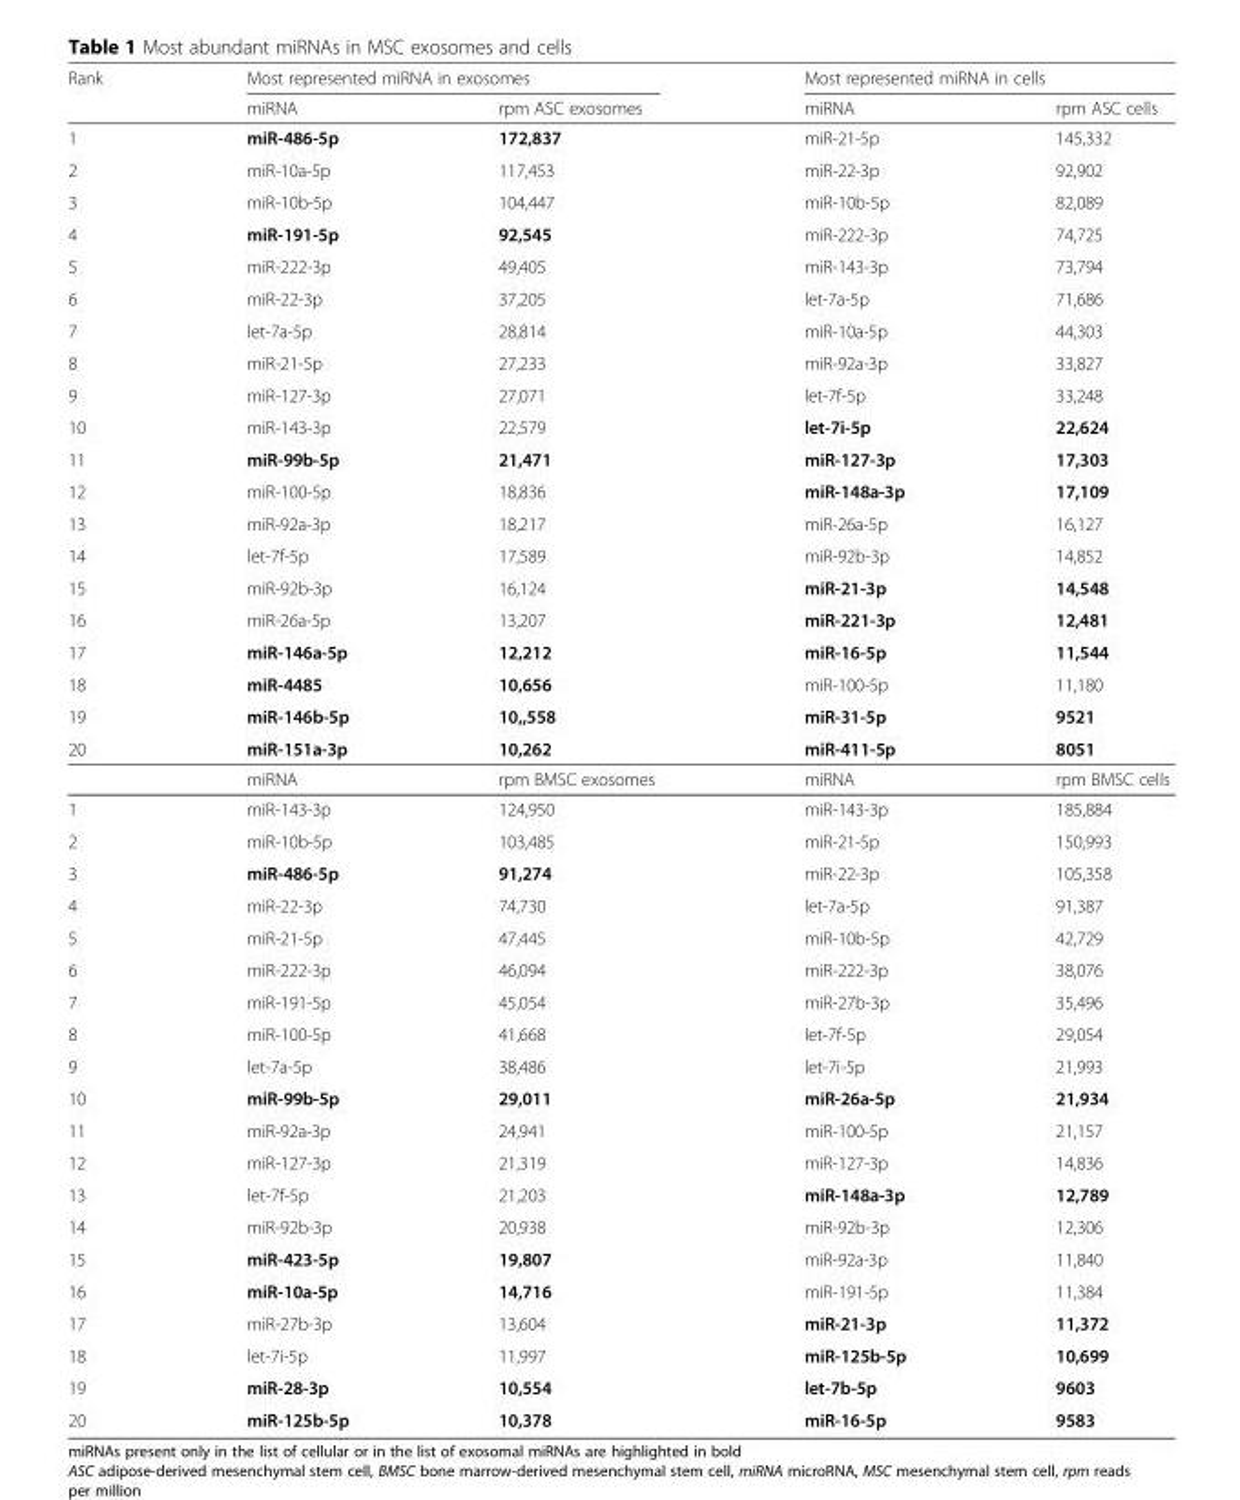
<table><thead><tr><td rowspan="2">Rank</td><td colspan="2">Most represented miRNA in exosomes</td><td colspan="2">Most represented miRNA in cells</td></tr><tr><td>miRNA</td><td>rpm ASC exosomes</td><td>miRNA</td><td>rpm ASC cells</td></tr></thead><tbody><tr><td>1</td><td>miR-486-5p</td><td>172,837</td><td>miR-21-5p</td><td>145,332</td></tr><tr><td>2</td><td>miR-10a-5p</td><td>117,453</td><td>miR-22-3p</td><td>92,902</td></tr><tr><td>3</td><td>miR-10b-5p</td><td>104,447</td><td>miR-10b-5p</td><td>82,089</td></tr><tr><td>4</td><td>miR-191-5p</td><td>92,545</td><td>miR-222-3p</td><td>74,725</td></tr><tr><td>5</td><td>miR-222-3p</td><td>49,405</td><td>miR-143-3p</td><td>73,794</td></tr><tr><td>6</td><td>miR-22-3p</td><td>37,205</td><td>let-7a-5p</td><td>71,686</td></tr><tr><td>7</td><td>let-7a-5p</td><td>28,814</td><td>miR-10a-5p</td><td>44,303</td></tr><tr><td>8</td><td>miR-21-5p</td><td>27,233</td><td>miR-92a-3p</td><td>33,827</td></tr><tr><td>9</td><td>miR-127-3p</td><td>27,071</td><td>let-7f-5p</td><td>33,248</td></tr><tr><td>10</td><td>miR-143-3p</td><td>22,579</td><td>let-7i-5p</td><td>22,624</td></tr><tr><td>11</td><td>miR-99b-5p</td><td>21,471</td><td>miR-127-3p</td><td>17,303</td></tr><tr><td>12</td><td>miR-100-5p</td><td>18,836</td><td>miR-148a-3p</td><td>17,109</td></tr><tr><td>13</td><td>miR-92a-3p</td><td>18,217</td><td>miR-26a-5p</td><td>16,127</td></tr><tr><td>14</td><td>let-7f-5p</td><td>17,589</td><td>miR-92b-3p</td><td>14,852</td></tr><tr><td>15</td><td>miR-92b-3p</td><td>16,124</td><td>miR-21-3p</td><td>14,548</td></tr><tr><td>16</td><td>miR-26a-5p</td><td>13,207</td><td>miR-221-3p</td><td>12,481</td></tr><tr><td>17</td><td>miR-146a-5p</td><td>12,212</td><td>miR-16-5p</td><td>11,544</td></tr><tr><td>18</td><td>miR-4485</td><td>10,656</td><td>miR-100-5p</td><td>11,180</td></tr><tr><td>19</td><td>miR-146b-5p</td><td>10,,558</td><td>miR-31-5p</td><td>9521</td></tr><tr><td rowspan="2">20</td><td>miR-151a-3p</td><td>10,262</td><td>miR-411-5p</td><td>8051</td></tr><tr><td>miRNA</td><td>rpm BMSC exosomes</td><td>miRNA</td><td>rpm BMSC cells</td></tr><tr><td>1</td><td>miR-143-3p</td><td>124,950</td><td>miR-143-3p</td><td>185,884</td></tr><tr><td>2</td><td>miR-10b-5p</td><td>103,485</td><td>miR-21-5p</td><td>150,993</td></tr><tr><td>3</td><td>miR-486-5p</td><td>91,274</td><td>miR-22-3p</td><td>105,358</td></tr><tr><td>4</td><td>miR-22-3p</td><td>74,730</td><td>let-7a-5p</td><td>91,387</td></tr><tr><td>5</td><td>miR-21-5p</td><td>47,445</td><td>miR-10b-5p</td><td>42,729</td></tr><tr><td>6</td><td>miR-222-3p</td><td>46,094</td><td>miR-222-3p</td><td>38,076</td></tr><tr><td>7</td><td>miR-191-5p</td><td>45,054</td><td>miR-27b-3p</td><td>35,496</td></tr><tr><td>8</td><td>miR-100-5p</td><td>41,668</td><td>let-7f-5p</td><td>29,054</td></tr><tr><td>9</td><td>let-7a-5p</td><td>38,486</td><td>let-7i-5p</td><td>21,993</td></tr><tr><td>10</td><td>miR-99b-5p</td><td>29,011</td><td>miR-26a-5p</td><td>21,934</td></tr><tr><td>11</td><td>miR-92a-3p</td><td>24,941</td><td>miR-100-5p</td><td>21,157</td></tr><tr><td>12</td><td>miR-127-3p</td><td>21,319</td><td>miR-127-3p</td><td>14,836</td></tr><tr><td>13</td><td>let-7f-5p</td><td>21,203</td><td>miR-148a-3p</td><td>12,789</td></tr><tr><td>14</td><td>miR-92b-3p</td><td>20,938</td><td>miR-92b-3p</td><td>12,306</td></tr><tr><td>15</td><td>miR-423-5p</td><td>19,807</td><td>miR-92a-3p</td><td>11,840</td></tr><tr><td>16</td><td>miR-10a-5p</td><td>14,716</td><td>miR-191-5p</td><td>11,384</td></tr><tr><td>17</td><td>miR-27b-3p</td><td>13,604</td><td>miR-21-3p</td><td>11,372</td></tr><tr><td>18</td><td>let-7i-5p</td><td>11,997</td><td>miR-125b-5p</td><td>10,699</td></tr><tr><td>19</td><td>miR-28-3p</td><td>10,554</td><td>let-7b-5p</td><td>9603</td></tr><tr><td>20</td><td>miR-125b-5p</td><td>10,378</td><td>miR-16-5p</td><td>9583</td></tr></tbody></table>